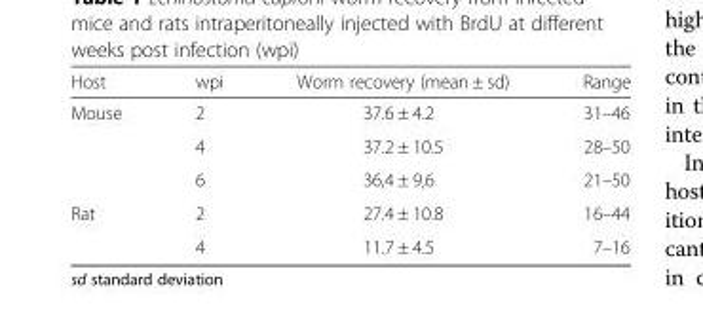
<table><thead><tr><td>Host</td><td>wpi</td><td>Worm recovery (mean ± sd)</td><td>Range</td></tr></thead><tbody><tr><td rowspan="3">Mouse</td><td>2</td><td>37.6 ± 4.2</td><td>31–46</td></tr><tr><td>4</td><td>37.2 ± 10.5</td><td>28–50</td></tr><tr><td>6</td><td>36,4 ± 9,6</td><td>21–50</td></tr><tr><td rowspan="2">Rat</td><td>2</td><td>27.4 ± 10.8</td><td>16–44</td></tr><tr><td>4</td><td>11.7 ± 4.5</td><td>7–16</td></tr></tbody></table>